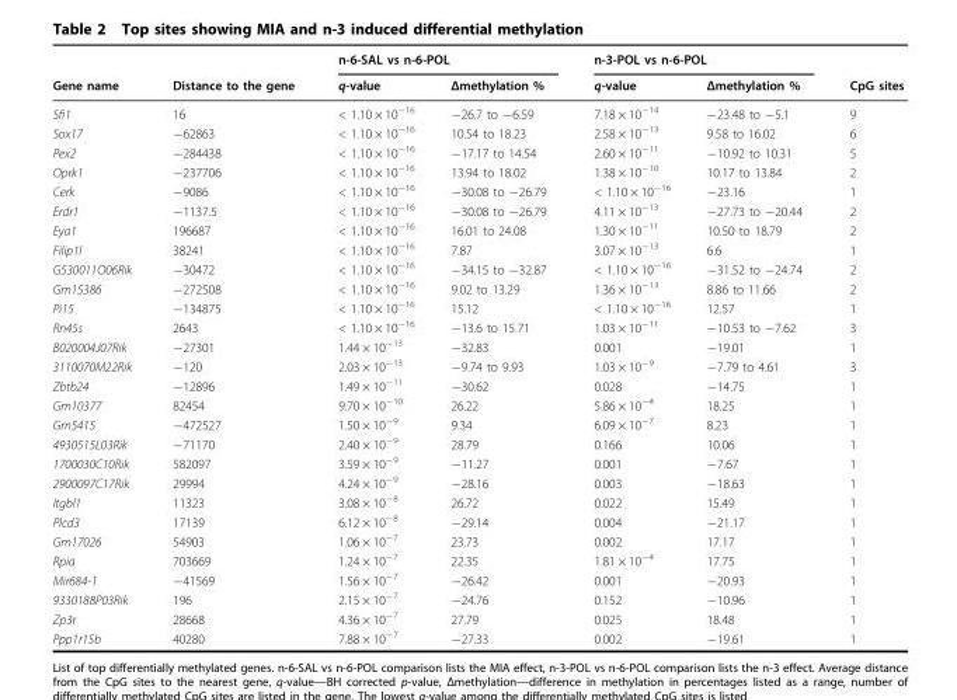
<table><thead><tr><td rowspan="2">Gene name</td><td rowspan="2">Distance to the gene</td><td colspan="2">n-6-SAL vs n-6-POL</td><td colspan="2">n-3-POL vs n-6-POL</td><td rowspan="2">CpG sites</td></tr><tr><td>q-value</td><td>Δmethylation %</td><td>q-value</td><td>Δmethylation %</td></tr></thead><tbody><tr><td>Sfi1</td><td>16</td><td>&lt; 1.10 × 10<sup>−16</sup></td><td>−26.7 to −6.59</td><td>7.18 × 10<sup>−14</sup></td><td>−23.48 to −5.1</td><td>9</td></tr><tr><td>Sox17</td><td>−62863</td><td>&lt; 1.10 × 10<sup>−16</sup></td><td>10.54 to 18.23</td><td>2.58 × 10<sup>−13</sup></td><td>9.58 to 16.02</td><td>6</td></tr><tr><td>Pex2</td><td>−284438</td><td>&lt; 1.10 × 10<sup>−16</sup></td><td>−17.17 to 14.54</td><td>2.60 × 10<sup>−11</sup></td><td>−10.92 to 10.31</td><td>5</td></tr><tr><td>Oprk1</td><td>−237706</td><td>&lt; 1.10 × 10<sup>−16</sup></td><td>13.94 to 18.02</td><td>1.38 × 10<sup>−10</sup></td><td>10.17 to 13.84</td><td>2</td></tr><tr><td>Cerk</td><td>−9086</td><td>&lt; 1.10 × 10<sup>−16</sup></td><td>−30.08 to −26.79</td><td>&lt; 1.10 × 10<sup>−16</sup></td><td>−23.16</td><td>1</td></tr><tr><td>Erdr1</td><td>−1137.5</td><td>&lt; 1.10 × 10<sup>−16</sup></td><td>−30.08 to −26.79</td><td>4.11 × 10<sup>−13</sup></td><td>−27.73 to −20.44</td><td>2</td></tr><tr><td>Eya1</td><td>196687</td><td>&lt; 1.10 × 10<sup>−16</sup></td><td>16.01 to 24.08</td><td>1.30 × 10<sup>−11</sup></td><td>10.50 to 18.79</td><td>2</td></tr><tr><td>Filip1l</td><td>38241</td><td>&lt; 1.10 × 10<sup>−16</sup></td><td>7.87</td><td>3.07 × 10<sup>−13</sup></td><td>6.6</td><td>1</td></tr><tr><td>G530011O06Rik</td><td>−30472</td><td>&lt; 1.10 × 10<sup>−16</sup></td><td>−34.15 to −32.87</td><td>&lt; 1.10 × 10<sup>−16</sup></td><td>−31.52 to −24.74</td><td>2</td></tr><tr><td>Gm15386</td><td>−272508</td><td>&lt; 1.10 × 10<sup>−16</sup></td><td>9.02 to 13.29</td><td>1.36 × 10<sup>−13</sup></td><td>8.86 to 11.66</td><td>2</td></tr><tr><td>Pi15</td><td>−134875</td><td>&lt; 1.10 × 10<sup>−16</sup></td><td>15.12</td><td>&lt; 1.10 × 10<sup>−16</sup></td><td>12.57</td><td>1</td></tr><tr><td>Rn45s</td><td>2643</td><td>&lt; 1.10 × 10<sup>−16</sup></td><td>−13.6 to 15.71</td><td>1.03 × 10<sup>−11</sup></td><td>−10.53 to −7.62</td><td>3</td></tr><tr><td>B020004J07Rik</td><td>−27301</td><td>1.44 × 10<sup>−13</sup></td><td>−32.83</td><td>0.001</td><td>−19.01</td><td>1</td></tr><tr><td>3110070M22Rik</td><td>−120</td><td>2.03 × 10<sup>−13</sup></td><td>−9.74 to 9.93</td><td>1.03 × 10<sup>−9</sup></td><td>−7.79 to 4.61</td><td>3</td></tr><tr><td>Zbtb24</td><td>−12896</td><td>1.49 × 10<sup>−11</sup></td><td>−30.62</td><td>0.028</td><td>−14.75</td><td>1</td></tr><tr><td>Gm10377</td><td>82454</td><td>9.70 × 10<sup>−10</sup></td><td>26.22</td><td>5.86 × 10<sup>−4</sup></td><td>18.25</td><td>1</td></tr><tr><td>Gm5415</td><td>−472527</td><td>1.50 × 10<sup>−9</sup></td><td>9.34</td><td>6.09 × 10<sup>−7</sup></td><td>8.23</td><td>1</td></tr><tr><td>4930515L03Rik</td><td>−71170</td><td>2.40 × 10<sup>−9</sup></td><td>28.79</td><td>0.166</td><td>10.06</td><td>1</td></tr><tr><td>1700030C10Rik</td><td>582097</td><td>3.59 × 10<sup>−9</sup></td><td>−11.27</td><td>0.001</td><td>−7.67</td><td>1</td></tr><tr><td>2900097C17Rik</td><td>29994</td><td>4.24 × 10<sup>−9</sup></td><td>−28.16</td><td>0.003</td><td>−18.63</td><td>1</td></tr><tr><td>Itgbl1</td><td>11323</td><td>3.08 × 10<sup>−8</sup></td><td>26.72</td><td>0.022</td><td>15.49</td><td>1</td></tr><tr><td>Plcd3</td><td>17139</td><td>6.12 × 10<sup>−8</sup></td><td>−29.14</td><td>0.004</td><td>−21.17</td><td>1</td></tr><tr><td>Gm17026</td><td>54903</td><td>1.06 × 10<sup>−7</sup></td><td>23.73</td><td>0.002</td><td>17.17</td><td>1</td></tr><tr><td>Rpia</td><td>703669</td><td>1.24 × 10<sup>−7</sup></td><td>22.35</td><td>1.81 × 10<sup>−4</sup></td><td>17.75</td><td>1</td></tr><tr><td>Mir684-1</td><td>−41569</td><td>1.56 × 10<sup>−7</sup></td><td>−26.42</td><td>0.001</td><td>−20.93</td><td>1</td></tr><tr><td>9330188P03Rik</td><td>196</td><td>2.15 × 10<sup>−7</sup></td><td>−24.76</td><td>0.152</td><td>−10.96</td><td>1</td></tr><tr><td>Zp3r</td><td>28668</td><td>4.36 × 10<sup>−7</sup></td><td>27.79</td><td>0.025</td><td>18.48</td><td>1</td></tr><tr><td>Ppp1r15b</td><td>40280</td><td>7.88 × 10<sup>−7</sup></td><td>−27.33</td><td>0.002</td><td>−19.61</td><td>1</td></tr></tbody></table>